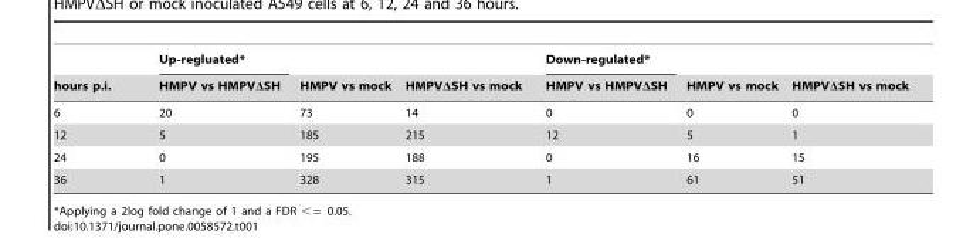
<table><thead><tr><td rowspan="2">hours p.i.</td><td rowspan="2">Up-regluated* HMPV vs HMPVΔSH</td><td rowspan="2">HMPV vs mock</td><td rowspan="2">HMPVΔSH vs mock</td><td rowspan="2">Down-regulated* HMPV vs HMPVΔSH</td><td rowspan="2">HMPV vs mock</td><td rowspan="2">HMPVΔSH vs mock</td></tr><tr></tr></thead><tbody><tr><td>6</td><td>20</td><td>73</td><td>14</td><td>0</td><td>0</td><td>0</td></tr><tr><td>12</td><td>5</td><td>185</td><td>215</td><td>12</td><td>5</td><td>1</td></tr><tr><td>24</td><td>0</td><td>195</td><td>188</td><td>0</td><td>16</td><td>15</td></tr><tr><td>36</td><td>1</td><td>328</td><td>315</td><td>1</td><td>61</td><td>51</td></tr></tbody></table>